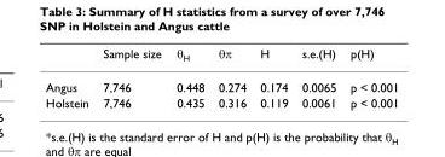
<table><thead><tr><td></td><td>Sample size</td><td>θ<sub>H</sub></td><td>θπ</td><td>H</td><td>s.e.(H)</td><td>p(H)</td></tr></thead><tbody><tr><td>Angus</td><td>7,746</td><td>0.448</td><td>0.274</td><td>0.174</td><td>0.0065</td><td>p &lt; 0.001</td></tr><tr><td>Holstein</td><td>7,746</td><td>0.435</td><td>0.316</td><td>0.119</td><td>0.0061</td><td>p &lt; 0.001</td></tr></tbody></table>